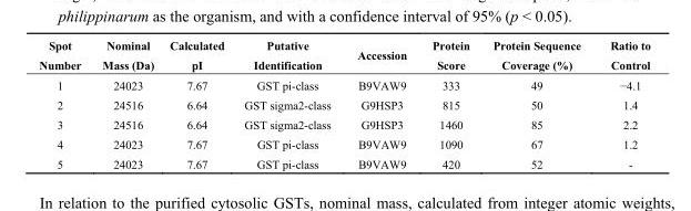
<table><thead><tr><td>Spot Number</td><td>Nominal Mass (Da)</td><td>Calculated pI</td><td>Putative Identification</td><td>Accession</td><td>Protein Score</td><td>Protein Sequence Coverage (%)</td><td>Ratio to Control</td></tr></thead><tbody><tr><td>1</td><td>24023</td><td>7.67</td><td>GST pi-class</td><td>B9VAW9</td><td>333</td><td>49</td><td>−4.1</td></tr><tr><td>2</td><td>24516</td><td>6.64</td><td>GST sigma2-class</td><td>G9HSP3</td><td>815</td><td>50</td><td>1.4</td></tr><tr><td>3</td><td>24516</td><td>6.64</td><td>GST sigma2-class</td><td>G9HSP3</td><td>1460</td><td>85</td><td>2.2</td></tr><tr><td>4</td><td>24023</td><td>7.67</td><td>GST pi-class</td><td>B9VAW9</td><td>1090</td><td>67</td><td>1.2</td></tr><tr><td>5</td><td>24023</td><td>7.67</td><td>GST pi-class</td><td>B9VAW9</td><td>420</td><td>52</td><td>-</td></tr></tbody></table>